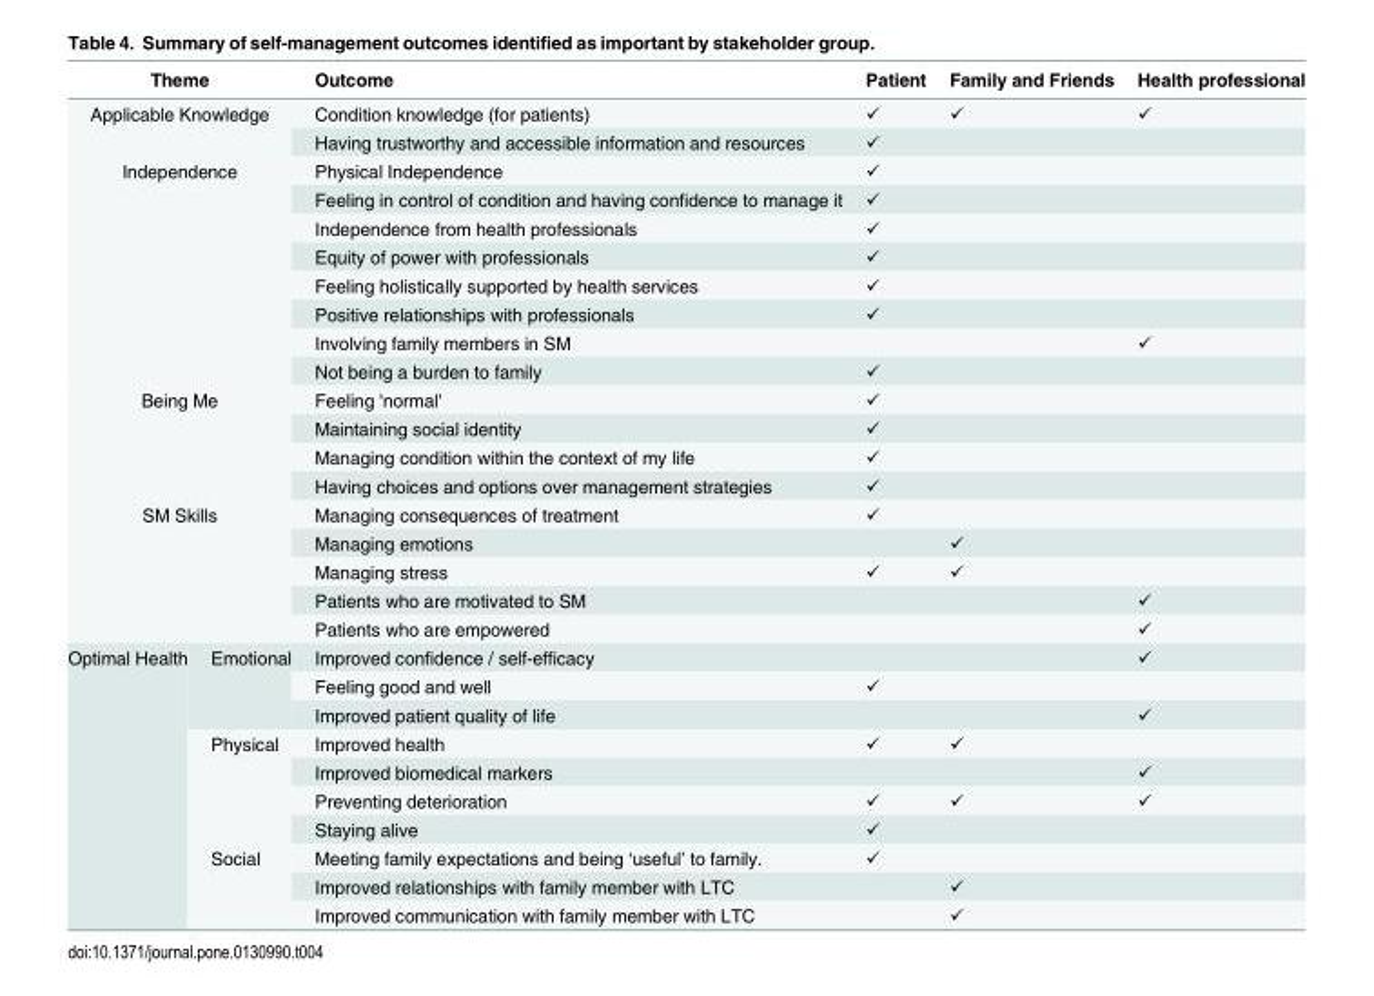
<table><thead><tr><td colspan="2">Theme</td><td>Outcome</td><td>Patient</td><td>Family and Friends</td><td>Health professional</td></tr></thead><tbody><tr><td rowspan="2" colspan="2">Applicable Knowledge</td><td>Condition knowledge (for patients)</td><td>✓</td><td>✓</td><td>✓</td></tr><tr><td>Having trustworthy and accessible information and resources</td><td>✓</td><td></td><td></td></tr><tr><td rowspan="8" colspan="2">Independence</td><td>Physical Independence</td><td>✓</td><td></td><td></td></tr><tr><td>Feeling in control of condition and having confidence to manage it</td><td>✓</td><td></td><td></td></tr><tr><td>Independence from health professionals</td><td>✓</td><td></td><td></td></tr><tr><td>Equity of power with professionals</td><td>✓</td><td></td><td></td></tr><tr><td>Feeling holistically supported by health services</td><td>✓</td><td></td><td></td></tr><tr><td>Positive relationships with professionals</td><td>✓</td><td></td><td></td></tr><tr><td>Involving family members in SM</td><td></td><td></td><td>✓</td></tr><tr><td>Not being a burden to family</td><td>✓</td><td></td><td></td></tr><tr><td rowspan="4" colspan="2">Being Me</td><td>Feeling &#x27;normal&#x27;</td><td>✓</td><td></td><td></td></tr><tr><td>Maintaining social identity</td><td>✓</td><td></td><td></td></tr><tr><td>Managing condition within the context of my life</td><td>✓</td><td></td><td></td></tr><tr><td>Having choices and options over management strategies</td><td>✓</td><td></td><td></td></tr><tr><td rowspan="5" colspan="2">SM Skills</td><td>Managing consequences of treatment</td><td>✓</td><td></td><td></td></tr><tr><td>Managing emotions</td><td></td><td>✓</td><td></td></tr><tr><td>Managing stress</td><td>✓</td><td>✓</td><td></td></tr><tr><td>Patients who are motivated to SM</td><td></td><td></td><td>✓</td></tr><tr><td>Patients who are empowered</td><td></td><td></td><td>✓</td></tr><tr><td rowspan="10">Optimal Health</td><td rowspan="3">Emotional</td><td>Improved confidence / self-efficacy</td><td></td><td></td><td>✓</td></tr><tr><td>Feeling good and well</td><td>✓</td><td></td><td></td></tr><tr><td>Improved patient quality of life</td><td></td><td></td><td>✓</td></tr><tr><td rowspan="4">Physical</td><td>Improved health</td><td>✓</td><td>✓</td><td></td></tr><tr><td>Improved biomedical markers</td><td></td><td></td><td>✓</td></tr><tr><td>Preventing deterioration</td><td>✓</td><td>✓</td><td>✓</td></tr><tr><td>Staying alive</td><td>✓</td><td></td><td></td></tr><tr><td rowspan="3">Social</td><td>Meeting family expectations and being ‘useful’ to family.</td><td>✓</td><td></td><td></td></tr><tr><td>Improved relationships with family member with LTC</td><td></td><td>✓</td><td></td></tr><tr><td>Improved communication with family member with LTC</td><td></td><td>✓</td><td></td></tr></tbody></table>